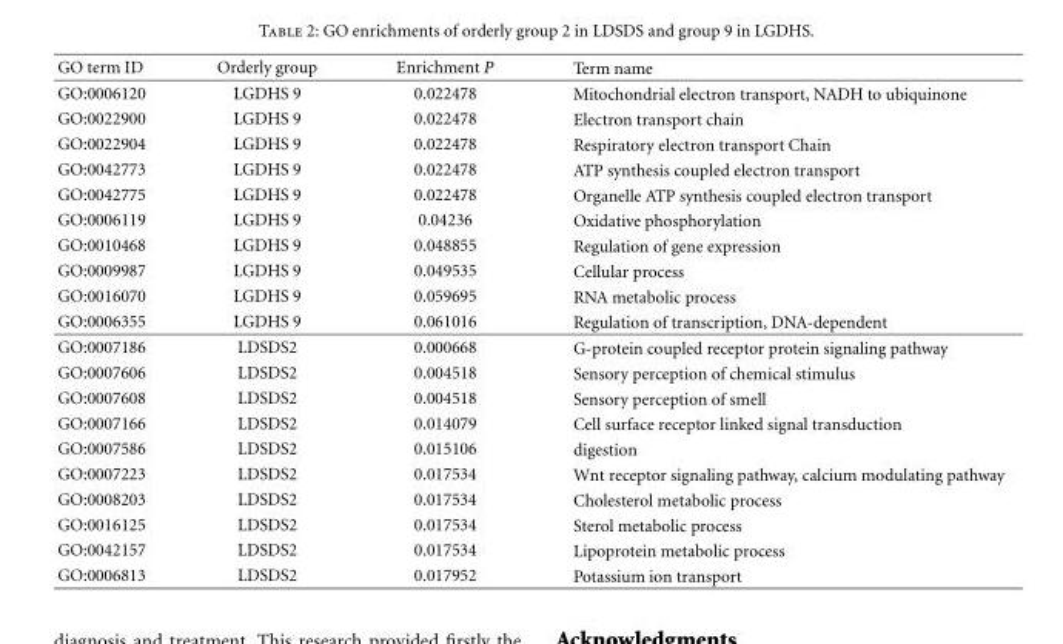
<table><thead><tr><td>GO term ID</td><td>Orderly group</td><td>Enrichment P</td><td>Term name</td></tr></thead><tbody><tr><td>GO:0006120</td><td>LGDHS 9</td><td>0.022478</td><td>Mitochondrial electron transport, NADH to ubiquinone</td></tr><tr><td>GO:0022900</td><td>LGDHS 9</td><td>0.022478</td><td>Electron transport chain</td></tr><tr><td>GO:0022904</td><td>LGDHS 9</td><td>0.022478</td><td>Respiratory electron transport Chain</td></tr><tr><td>GO:0042773</td><td>LGDHS 9</td><td>0.022478</td><td>ATP synthesis coupled electron transport</td></tr><tr><td>GO:0042775</td><td>LGDHS 9</td><td>0.022478</td><td>Organelle ATP synthesis coupled electron transport</td></tr><tr><td>GO:0006119</td><td>LGDHS 9</td><td>0.04236</td><td>Oxidative phosphorylation</td></tr><tr><td>GO:0010468</td><td>LGDHS 9</td><td>0.048855</td><td>Regulation of gene expression</td></tr><tr><td>GO:0009987</td><td>LGDHS 9</td><td>0.049535</td><td>Cellular process</td></tr><tr><td>GO:0016070</td><td>LGDHS 9</td><td>0.059695</td><td>RNA metabolic process</td></tr><tr><td>GO:0006355</td><td>LGDHS 9</td><td>0.061016</td><td>Regulation of transcription, DNA-dependent</td></tr><tr><td>GO:0007186</td><td>LDSDS2</td><td>0.000668</td><td>G-protein coupled receptor protein signaling pathway</td></tr><tr><td>GO:0007606</td><td>LDSDS2</td><td>0.004518</td><td>Sensory perception of chemical stimulus</td></tr><tr><td>GO:0007608</td><td>LDSDS2</td><td>0.004518</td><td>Sensory perception of smell</td></tr><tr><td>GO:0007166</td><td>LDSDS2</td><td>0.014079</td><td>Cell surface receptor linked signal transduction</td></tr><tr><td>GO:0007586</td><td>LDSDS2</td><td>0.015106</td><td>digestion</td></tr><tr><td>GO:0007223</td><td>LDSDS2</td><td>0.017534</td><td>Wnt receptor signaling pathway, calcium modulating pathway</td></tr><tr><td>GO:0008203</td><td>LDSDS2</td><td>0.017534</td><td>Cholesterol metabolic process</td></tr><tr><td>GO:0016125</td><td>LDSDS2</td><td>0.017534</td><td>Sterol metabolic process</td></tr><tr><td>GO:0042157</td><td>LDSDS2</td><td>0.017534</td><td>Lipoprotein metabolic process</td></tr><tr><td>GO:0006813</td><td>LDSDS2</td><td>0.017952</td><td>Potassium ion transport</td></tr></tbody></table>